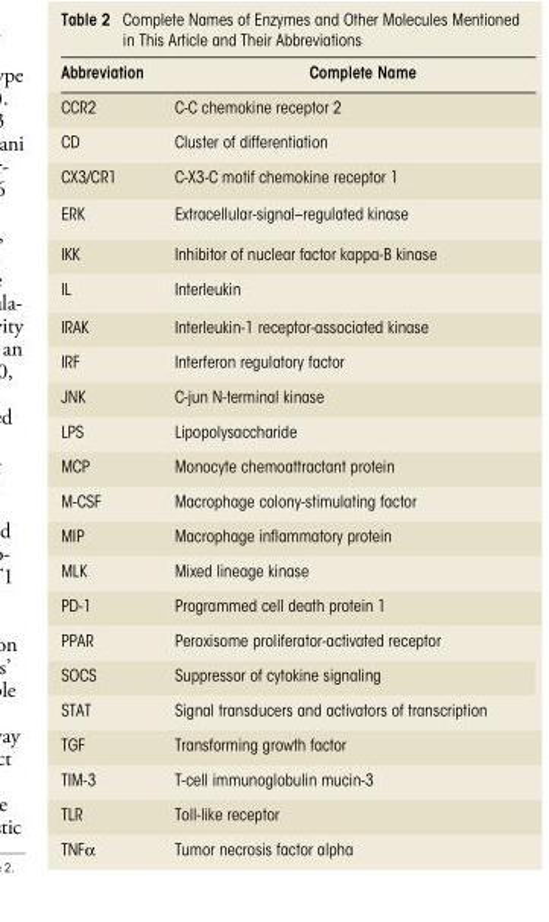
<table><thead><tr><td>Abbreviation</td><td>Complete Name</td></tr></thead><tbody><tr><td>CCR2</td><td>C-C chemokine receptor 2</td></tr><tr><td>CD</td><td>Cluster of differentiation</td></tr><tr><td>CX3/CR1</td><td>C-X3-C motif chemokine receptor 1</td></tr><tr><td>ERK</td><td>Extracellular-signal–regulated kinase</td></tr><tr><td>IKK</td><td>Inhibitor of nuclear factor kappa-B kinase</td></tr><tr><td>IL</td><td>Interleukin</td></tr><tr><td>IRAK</td><td>Interleukin-1 receptor-associated kinase</td></tr><tr><td>IRF</td><td>Interferon regulatory factor</td></tr><tr><td>JNK</td><td>C-jun N-terminal kinase</td></tr><tr><td>LPS</td><td>Lipopolysaccharide</td></tr><tr><td>MCP</td><td>Monocyte chemoattractant protein</td></tr><tr><td>M-CSF</td><td>Macrophage colony-stimulating factor</td></tr><tr><td>MIP</td><td>Macrophage inflammatory protein</td></tr><tr><td>MLK</td><td>Mixed lineage kinase</td></tr><tr><td>PD-1</td><td>Programmed cell death protein 1</td></tr><tr><td>PPAR</td><td>Peroxisome proliferator-activated receptor</td></tr><tr><td>SOCS</td><td>Suppressor of cytokine signaling</td></tr><tr><td>STAT</td><td>Signal transducers and activators of transcription</td></tr><tr><td>TGF</td><td>Transforming growth factor</td></tr><tr><td>TIM-3</td><td>T-cell immunoglobulin mucin-3</td></tr><tr><td>TLR</td><td>Toll-like receptor</td></tr><tr><td>TNFα</td><td>Tumor necrosis factor alpha</td></tr></tbody></table>